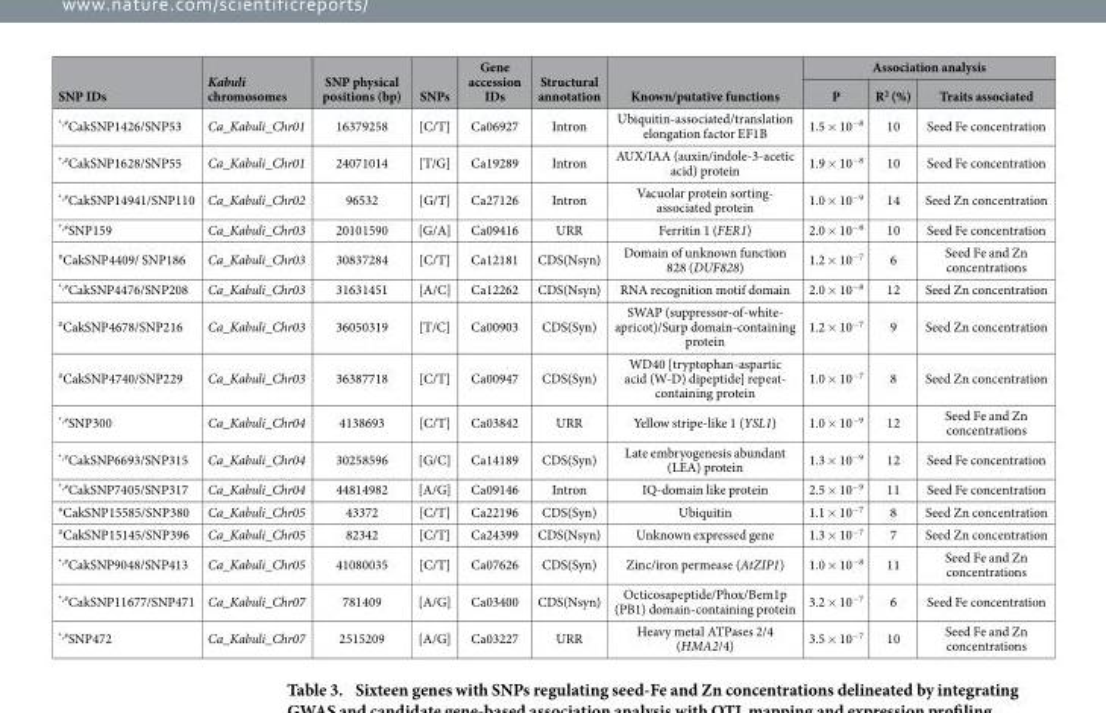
<table><thead><tr><td rowspan="2">SNP IDs</td><td rowspan="2">Kabuli chromosomes</td><td rowspan="2">SNP physical positions (bp)</td><td rowspan="2">SNPs</td><td rowspan="2">Gene accession IDs</td><td rowspan="2">Structural annotation</td><td rowspan="2">Known/putative functions</td><td colspan="3">Association analysis</td></tr><tr><td>P</td><td>R<sup>2</sup> (%)</td><td>Traits associated</td></tr></thead><tbody><tr><td>*<sup>,</sup>#CakSNP1426/SNP53</td><td>Ca_Kabuli_Chr01</td><td>16379258</td><td>[C/T]</td><td>Ca06927</td><td>Intron</td><td>Ubiquitin-associated/translation elongation factor EF1B</td><td>1.5 × 10<sup>−8</sup></td><td>10</td><td>Seed Fe concentration</td></tr><tr><td>*<sup>,</sup>#CakSNP1628/SNP55</td><td>Ca_Kabuli_Chr01</td><td>24071014</td><td>[T/G]</td><td>Ca19289</td><td>Intron</td><td>AUX/IAA (auxin/indole-3-acetic acid) protein</td><td>1.9 × 10<sup>−8</sup></td><td>10</td><td>Seed Fe concentration</td></tr><tr><td>*<sup>,</sup>#CakSNP14941/SNP110</td><td>Ca_Kabuli_Chr02</td><td>96532</td><td>[G/T]</td><td>Ca27126</td><td>Intron</td><td>Vacuolar protein sorting- associated protein</td><td>1.0 × 10<sup>−9</sup></td><td>14</td><td>Seed Zn concentration</td></tr><tr><td>*<sup>,</sup>#SNP159</td><td>Ca_Kabuli_Chr03</td><td>20101590</td><td>[G/A]</td><td>Ca09416</td><td>URR</td><td>Ferritin 1 (FER1)</td><td>2.0 × 10<sup>−8</sup></td><td>10</td><td>Seed Fe concentration</td></tr><tr><td>#CakSNP4409/ SNP186</td><td>Ca_Kabuli_Chr03</td><td>30837284</td><td>[C/T]</td><td>Ca12181</td><td>CDS(Nsyn)</td><td>Domain of unknown function 828 (DUF828)</td><td>1.2 × 10<sup>−7</sup></td><td>6</td><td>Seed Fe and Zn concentrations</td></tr><tr><td>*<sup>,</sup>#CakSNP4476/SNP208</td><td>Ca_Kabuli_Chr03</td><td>31631451</td><td>[A/C]</td><td>Ca12262</td><td>CDS(Nsyn)</td><td>RNA recognition motif domain</td><td>2.0 × 10<sup>−8</sup></td><td>12</td><td>Seed Zn concentration</td></tr><tr><td>#CakSNP4678/SNP216</td><td>Ca_Kabuli_Chr03</td><td>36050319</td><td>[T/C]</td><td>Ca00903</td><td>CDS(Syn)</td><td>SWAP (suppressor-of-white- apricot)/Surp domain-containing protein</td><td>1.2 × 10<sup>−7</sup></td><td>9</td><td>Seed Zn concentration</td></tr><tr><td>#CakSNP4740/SNP229</td><td>Ca_Kabuli_Chr03</td><td>36387718</td><td>[C/T]</td><td>Ca00947</td><td>CDS(Syn)</td><td>WD40 [tryptophan-aspartic acid (W-D) dipeptide] repeat- containing protein</td><td>1.0 × 10<sup>−7</sup></td><td>8</td><td>Seed Zn concentration</td></tr><tr><td>*<sup>,</sup>#SNP300</td><td>Ca_Kabuli_Chr04</td><td>4138693</td><td>[C/T]</td><td>Ca03842</td><td>URR</td><td>Yellow stripe-like 1 (YSL1)</td><td>1.0 × 10<sup>−9</sup></td><td>12</td><td>Seed Fe and Zn concentrations</td></tr><tr><td>*<sup>,</sup>#CakSNP6693/SNP315</td><td>Ca_Kabuli_Chr04</td><td>30258596</td><td>[G/C]</td><td>Ca14189</td><td>CDS(Syn)</td><td>Late embryogenesis abundant (LEA) protein</td><td>1.3 × 10<sup>−9</sup></td><td>12</td><td>Seed Fe concentration</td></tr><tr><td>*<sup>,</sup>#CakSNP7405/SNP317</td><td>Ca_Kabuli_Chr04</td><td>44814982</td><td>[A/G]</td><td>Ca09146</td><td>Intron</td><td>IQ-domain like protein</td><td>2.5 × 10<sup>−9</sup></td><td>11</td><td>Seed Fe concentration</td></tr><tr><td>#CakSNP15585/SNP380</td><td>Ca_Kabuli_Chr05</td><td>43372</td><td>[C/T]</td><td>Ca22196</td><td>CDS(Syn)</td><td>Ubiquitin</td><td>1.1 × 10<sup>−7</sup></td><td>8</td><td>Seed Zn concentration</td></tr><tr><td>#CakSNP15145/SNP396</td><td>Ca_Kabuli_Chr05</td><td>82342</td><td>[C/T]</td><td>Ca24399</td><td>CDS(Nsyn)</td><td>Unknown expressed gene</td><td>1.3 × 10<sup>−7</sup></td><td>7</td><td>Seed Zn concentration</td></tr><tr><td>*<sup>,</sup>#CakSNP9048/SNP413</td><td>Ca_Kabuli_Chr05</td><td>41080035</td><td>[C/T]</td><td>Ca07626</td><td>CDS(Syn)</td><td>Zinc/iron permease (AtZIP1)</td><td>1.0 × 10<sup>−8</sup></td><td>11</td><td>Seed Fe and Zn concentrations</td></tr><tr><td>*<sup>,</sup>#CakSNP11677/SNP471</td><td>Ca_Kabuli_Chr07</td><td>781409</td><td>[A/G]</td><td>Ca03400</td><td>CDS(Nsyn)</td><td>Octicosapeptide/Phox/Bem1p (PB1) domain-containing protein</td><td>3.2 × 10<sup>−7</sup></td><td>6</td><td>Seed Fe concentration</td></tr><tr><td>*<sup>,</sup>#SNP472</td><td>Ca_Kabuli_Chr07</td><td>2515209</td><td>[A/G]</td><td>Ca03227</td><td>URR</td><td>Heavy metal ATPases 2/4 (HMA2/4)</td><td>3.5 × 10<sup>−7</sup></td><td>10</td><td>Seed Fe and Zn concentrations</td></tr></tbody></table>